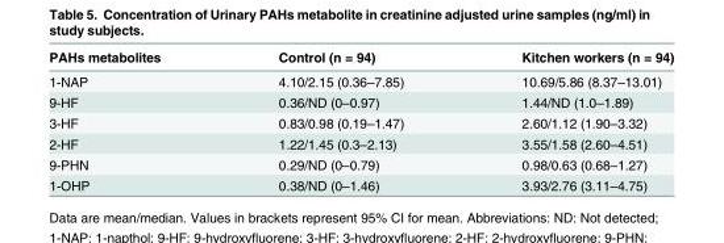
<table><thead><tr><td>PAHs metabolites</td><td>Control (n = 94)</td><td>Kitchen workers (n = 94)</td></tr></thead><tbody><tr><td>1-NAP</td><td>4.10/2.15 (0.36–7.85)</td><td>10.69/5.86 (8.37–13.01)</td></tr><tr><td>9-HF</td><td>0.36/ND (0–0.97)</td><td>1.44/ND (1.0–1.89)</td></tr><tr><td>3-HF</td><td>0.83/0.98 (0.19–1.47)</td><td>2.60/1.12 (1.90–3.32)</td></tr><tr><td>2-HF</td><td>1.22/1.45 (0.3–2.13)</td><td>3.55/1.58 (2.60–4.51)</td></tr><tr><td>9-PHN</td><td>0.29/ND (0–0.79)</td><td>0.98/0.63 (0.68–1.27)</td></tr><tr><td>1-OHP</td><td>0.38/ND (0–1.46)</td><td>3.93/2.76 (3.11–4.75)</td></tr></tbody></table>